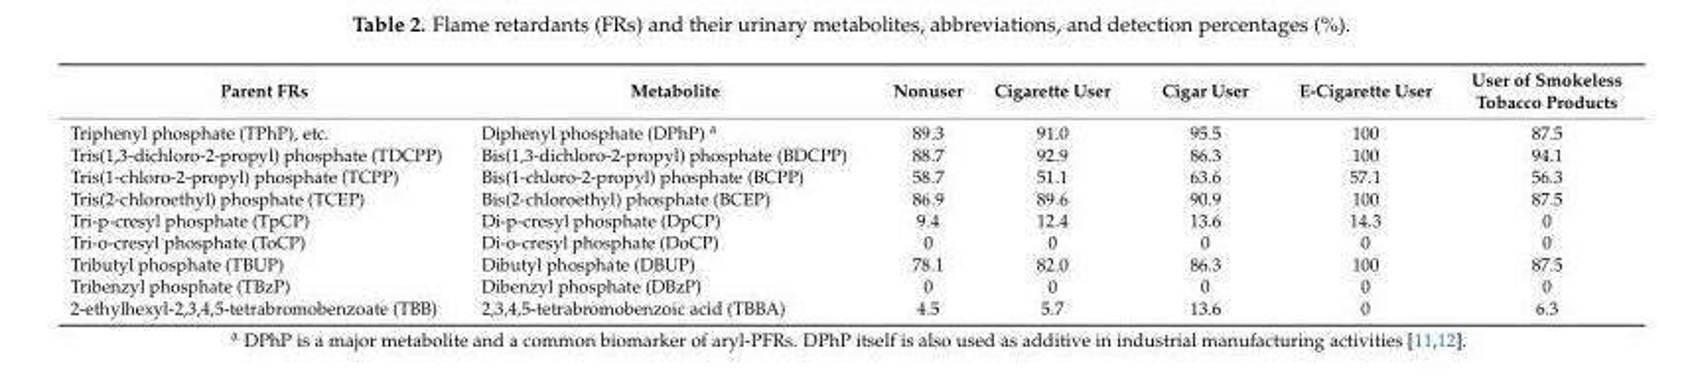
<table><thead><tr><td>Parent FRs</td><td>Metabolite</td><td>Nonuser</td><td>Cigarette User</td><td>Cigar User</td><td>E-Cigarette User</td><td>User of Smokeless Tobacco Products</td></tr></thead><tbody><tr><td>Triphenyl phosphate (TPhP), etc.</td><td>Diphenyl phosphate (DPhP) <sup>a</sup></td><td>89.3</td><td>91.0</td><td>95.5</td><td>100</td><td>87.5</td></tr><tr><td>Tris(1,3-dichloro-2-propyl) phosphate (TDCPP)</td><td>Bis(1,3-dichloro-2-propyl) phosphate (BDCPP)</td><td>88.7</td><td>92.9</td><td>86.3</td><td>100</td><td>94.1</td></tr><tr><td>Tris(1-chloro-2-propyl) phosphate (TCPP)</td><td>Bis(1-chloro-2-propyl) phosphate (BCPP)</td><td>58.7</td><td>51.1</td><td>63.6</td><td>57.1</td><td>56.3</td></tr><tr><td>Tris(2-chloroethyl) phosphate (TCEP)</td><td>Bis(2-chloroethyl) phosphate (BCEP)</td><td>86.9</td><td>89.6</td><td>90.9</td><td>100</td><td>87.5</td></tr><tr><td>Tri-p-cresyl phosphate (TpCP)</td><td>Di-p-cresyl phosphate (DpCP)</td><td>9.4</td><td>12.4</td><td>13.6</td><td>14.3</td><td>0</td></tr><tr><td>Tri-o-cresyl phosphate (ToCP)</td><td>Di-o-cresyl phosphate (DoCP)</td><td>0</td><td>0</td><td>0</td><td>0</td><td>0</td></tr><tr><td>Tributyl phosphate (TBUP)</td><td>Dibutyl phosphate (DBUP)</td><td>78.1</td><td>82.0</td><td>86.3</td><td>100</td><td>87.5</td></tr><tr><td>Tribenzyl phosphate (TBzP)</td><td>Dibenzyl phosphate (DBzP)</td><td>0</td><td>0</td><td>0</td><td>0</td><td>0</td></tr><tr><td>2-ethylhexyl-2,3,4,5-tetrabromobenzoate (TBB)</td><td>2,3,4,5-tetrabromobenzoic acid (TBBA)</td><td>4.5</td><td>5.7</td><td>13.6</td><td>0</td><td>6.3</td></tr></tbody></table>